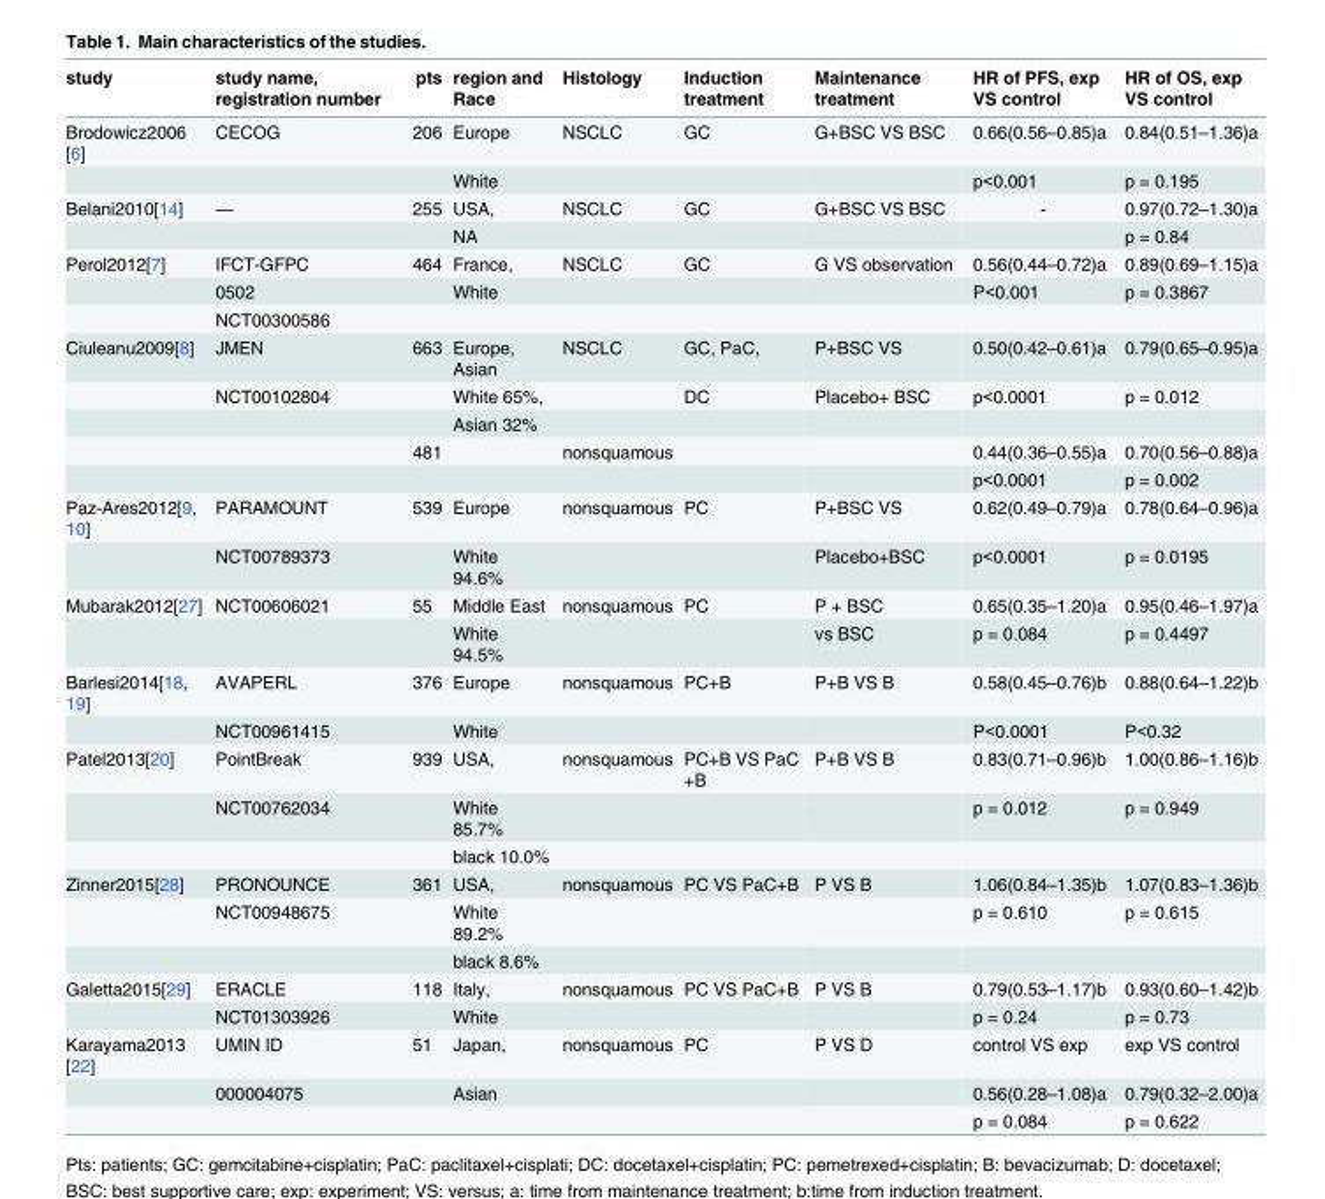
<table><thead><tr><td>study</td><td>study name, registration number</td><td>pts</td><td>region and Race</td><td>Histology</td><td>Induction treatment</td><td>Maintenance treatment</td><td>HR of PFS, exp VS control</td><td>HR of OS, exp VS control</td></tr></thead><tbody><tr><td rowspan="2">Brodowicz2006 [6]</td><td>CECOG</td><td>206</td><td>Europe</td><td>NSCLC</td><td>GC</td><td>G+BSC VS BSC</td><td>0.66(0.56–0.85)a</td><td>0.84(0.51–1.36)a</td></tr><tr><td></td><td></td><td>White</td><td></td><td></td><td></td><td>p&lt;0.001</td><td>p = 0.195</td></tr><tr><td rowspan="2">Belani2010[14]</td><td>—</td><td>255</td><td>USA,</td><td>NSCLC</td><td>GC</td><td>G+BSC VS BSC</td><td>-</td><td>0.97(0.72–1.30)a</td></tr><tr><td></td><td></td><td>NA</td><td></td><td></td><td></td><td></td><td>p = 0.84</td></tr><tr><td rowspan="3">Perol2012[7]</td><td>IFCT-GFPC</td><td>464</td><td>France,</td><td>NSCLC</td><td>GC</td><td>G VS observation</td><td>0.56(0.44–0.72)a</td><td>0.89(0.69–1.15)a</td></tr><tr><td>0502</td><td></td><td>White</td><td></td><td></td><td></td><td>P&lt;0.001</td><td>p = 0.3867</td></tr><tr><td>NCT00300586</td><td></td><td></td><td></td><td></td><td></td><td></td><td></td></tr><tr><td rowspan="5">Ciuleanu2009[8]</td><td>JMEN</td><td>663</td><td>Europe, Asian</td><td>NSCLC</td><td>GC, PaC,</td><td>P+BSC VS</td><td>0.50(0.42–0.61)a</td><td>0.79(0.65–0.95)a</td></tr><tr><td>NCT00102804</td><td></td><td>White 65%,</td><td></td><td>DC</td><td>Placebo+ BSC</td><td>p&lt;0.0001</td><td>p = 0.012</td></tr><tr><td></td><td></td><td>Asian 32%</td><td></td><td></td><td></td><td></td><td></td></tr><tr><td></td><td>481</td><td></td><td>nonsquamous</td><td></td><td></td><td>0.44(0.36–0.55)a</td><td>0.70(0.56–0.88)a</td></tr><tr><td></td><td></td><td></td><td></td><td></td><td></td><td>p&lt;0.0001</td><td>p = 0.002</td></tr><tr><td rowspan="2">Paz-Ares2012[9, 10]</td><td>PARAMOUNT</td><td>539</td><td>Europe</td><td>nonsquamous</td><td>PC</td><td>P+BSC VS</td><td>0.62(0.49–0.79)a</td><td>0.78(0.64–0.96)a</td></tr><tr><td>NCT00789373</td><td></td><td>White 94.6%</td><td></td><td></td><td>Placebo+BSC</td><td>p&lt;0.0001</td><td>p = 0.0195</td></tr><tr><td rowspan="2">Mubarak2012[27]</td><td>NCT00606021</td><td>55</td><td>Middle East</td><td>nonsquamous</td><td>PC</td><td>P + BSC</td><td>0.65(0.35–1.20)a</td><td>0.95(0.46–1.97)a</td></tr><tr><td></td><td></td><td>White 94.5%</td><td></td><td></td><td>vs BSC</td><td>p = 0.084</td><td>p = 0.4497</td></tr><tr><td rowspan="2">Barlesi2014[18, 19]</td><td>AVAPERL</td><td>376</td><td>Europe</td><td>nonsquamous</td><td>PC+B</td><td>P+B VS B</td><td>0.58(0.45–0.76)b</td><td>0.88(0.64–1.22)b</td></tr><tr><td>NCT00961415</td><td></td><td>White</td><td></td><td></td><td></td><td>P&lt;0.0001</td><td>P&lt;0.32</td></tr><tr><td rowspan="3">Patel2013[20]</td><td>PointBreak</td><td>939</td><td>USA,</td><td>nonsquamous</td><td>PC+B VS PaC +B</td><td>P+B VS B</td><td>0.83(0.71–0.96)b</td><td>1.00(0.86–1.16)b</td></tr><tr><td>NCT00762034</td><td></td><td>White 85.7%</td><td></td><td></td><td></td><td>p = 0.012</td><td>p = 0.949</td></tr><tr><td></td><td></td><td>black 10.0%</td><td></td><td></td><td></td><td></td><td></td></tr><tr><td rowspan="3">Zinner2015[28]</td><td>PRONOUNCE</td><td>361</td><td>USA,</td><td>nonsquamous</td><td>PC VS PaC+B</td><td>P VS B</td><td>1.06(0.84–1.35)b</td><td>1.07(0.83–1.36)b</td></tr><tr><td>NCT00948675</td><td></td><td>White 89.2%</td><td></td><td></td><td></td><td>p = 0.610</td><td>p = 0.615</td></tr><tr><td></td><td></td><td>black 8.6%</td><td></td><td></td><td></td><td></td><td></td></tr><tr><td rowspan="2">Galetta2015[29]</td><td>ERACLE</td><td>118</td><td>Italy,</td><td>nonsquamous</td><td>PC VS PaC+B</td><td>P VS B</td><td>0.79(0.53–1.17)b</td><td>0.93(0.60–1.42)b</td></tr><tr><td>NCT01303926</td><td></td><td>White</td><td></td><td></td><td></td><td>p = 0.24</td><td>p = 0.73</td></tr><tr><td rowspan="3">Karayama2013 [22]</td><td>UMIN ID</td><td>51</td><td>Japan,</td><td>nonsquamous</td><td>PC</td><td>P VS D</td><td>control VS exp</td><td>exp VS control</td></tr><tr><td>000004075</td><td></td><td>Asian</td><td></td><td></td><td></td><td>0.56(0.28–1.08)a</td><td>0.79(0.32–2.00)a</td></tr><tr><td></td><td></td><td></td><td></td><td></td><td></td><td>p = 0.084</td><td>p = 0.622</td></tr></tbody></table>